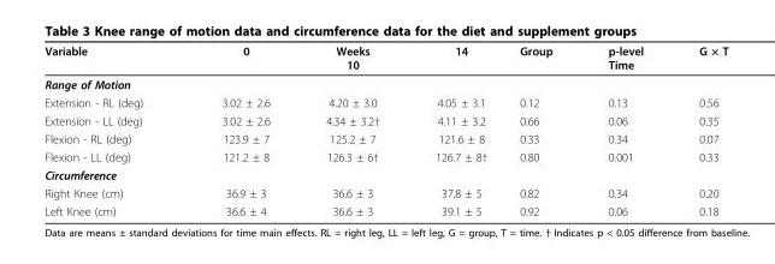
<table><thead><tr><td>Variable</td><td>0</td><td>Weeks 10</td><td>14</td><td>Group</td><td>p-level Time</td><td>G × T</td></tr></thead><tbody><tr><td colspan="7">Range of Motion</td></tr><tr><td>Extension - RL (deg)</td><td>3.02 ± 2.6</td><td>4.20 ± 3.0</td><td>4.05 ± 3.1</td><td>0.12</td><td>0.13</td><td>0.56</td></tr><tr><td>Extension - LL (deg)</td><td>3.02 ± 2.6</td><td>4.34 ± 3.2†</td><td>4.11 ± 3.2</td><td>0.66</td><td>0.06</td><td>0.35</td></tr><tr><td>Flexion - RL (deg)</td><td>123.9 ± 7</td><td>125.2 ± 7</td><td>121.6 ± 8</td><td>0.33</td><td>0.34</td><td>0.07</td></tr><tr><td>Flexion - LL (deg)</td><td>121.2 ± 8</td><td>126.3 ± 6†</td><td>126.7 ± 8†</td><td>0.80</td><td>0.001</td><td>0.33</td></tr><tr><td colspan="7">Circumference</td></tr><tr><td>Right Knee (cm)</td><td>36.9 ± 3</td><td>36.6 ± 3</td><td>37.8 ± 5</td><td>0.82</td><td>0.34</td><td>0.20</td></tr><tr><td>Left Knee (cm)</td><td>36.6 ± 4</td><td>36.6 ± 3</td><td>39.1 ± 5</td><td>0.92</td><td>0.06</td><td>0.18</td></tr></tbody></table>